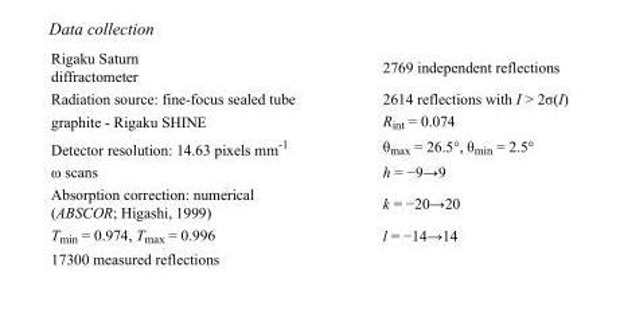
<table><tbody><tr><td>Rigaku Saturn diffractometer</td><td>2769 independent reflections</td></tr><tr><td>Radiation source: fine-focus sealed tube</td><td>2614 reflections with I &gt; 2σ(I)</td></tr><tr><td>graphite - Rigaku SHINE</td><td>R<sub>int</sub> = 0.074</td></tr><tr><td>Detector resolution: 14.63 pixels mm<sup>-1</sup></td><td>θ<sub>max</sub> = 26.5°, θ<sub>min</sub> = 2.5°</td></tr><tr><td>ω scans</td><td>h = −9→9</td></tr><tr><td>Absorption correction: numerical (ABSCOR; Higashi, 1999)</td><td>k = −20→20</td></tr><tr><td>T<sub>min</sub> = 0.974, T<sub>max</sub> = 0.996</td><td>l = −14→14</td></tr><tr><td>17300 measured reflections</td><td></td></tr></tbody></table>